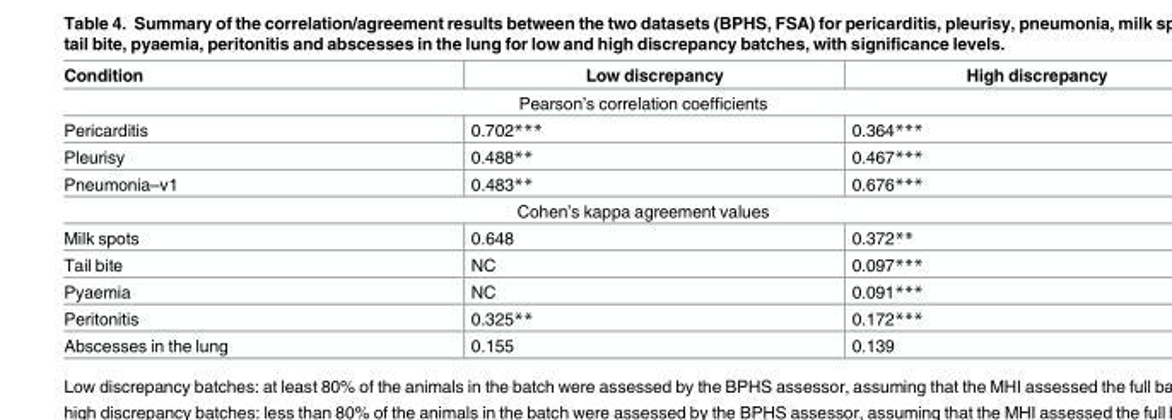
<table><thead><tr><td>Condition</td><td>Low discrepancy</td><td>High discrepancy</td></tr></thead><tbody><tr><td colspan="3">Pearson’s correlation coefficients</td></tr><tr><td>Pericarditis</td><td>0.702***</td><td>0.364***</td></tr><tr><td>Pleurisy</td><td>0.488**</td><td>0.467***</td></tr><tr><td>Pneumonia–v1</td><td>0.483**</td><td>0.676***</td></tr><tr><td colspan="3">Cohen’s kappa agreement values</td></tr><tr><td>Milk spots</td><td>0.648</td><td>0.372**</td></tr><tr><td>Tail bite</td><td>NC</td><td>0.097***</td></tr><tr><td>Pyaemia</td><td>NC</td><td>0.091***</td></tr><tr><td>Peritonitis</td><td>0.325**</td><td>0.172***</td></tr><tr><td>Abscesses in the lung</td><td>0.155</td><td>0.139</td></tr></tbody></table>